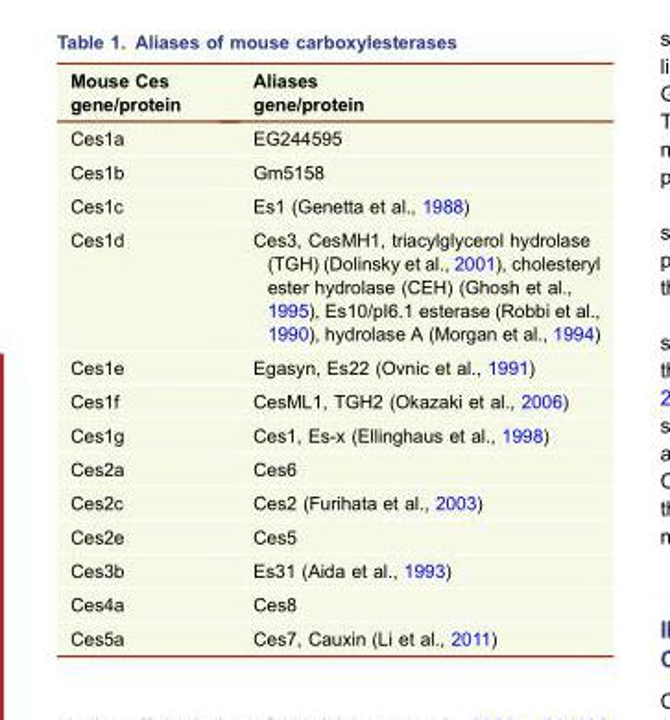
<table><thead><tr><td>Mouse Ces gene/protein</td><td>Aliases gene/protein</td></tr></thead><tbody><tr><td>Ces1a</td><td>EG244595</td></tr><tr><td>Ces1b</td><td>Gm5158</td></tr><tr><td>Ces1c</td><td>Es1 (Genetta et al., 1988)</td></tr><tr><td>Ces1d</td><td>Ces3, CesMH1, triacylglycerol hydrolase (TGH) (Dolinsky et al., 2001), cholesteryl ester hydrolase (CEH) (Ghosh et al., 1995), Es10/pI6.1 esterase (Robbi et al., 1990), hydrolase A (Morgan et al., 1994)</td></tr><tr><td>Ces1e</td><td>Egasyn, Es22 (Ovnic et al., 1991)</td></tr><tr><td>Ces1f</td><td>CesML1, TGH2 (Okazaki et al., 2006)</td></tr><tr><td>Ces1g</td><td>Ces1, Es-x (Ellinghaus et al., 1998)</td></tr><tr><td>Ces2a</td><td>Ces6</td></tr><tr><td>Ces2c</td><td>Ces2 (Furihata et al., 2003)</td></tr><tr><td>Ces2e</td><td>Ces5</td></tr><tr><td>Ces3b</td><td>Es31 (Aida et al., 1993)</td></tr><tr><td>Ces4a</td><td>Ces8</td></tr><tr><td>Ces5a</td><td>Ces7, Cauxin (Li et al., 2011)</td></tr></tbody></table>